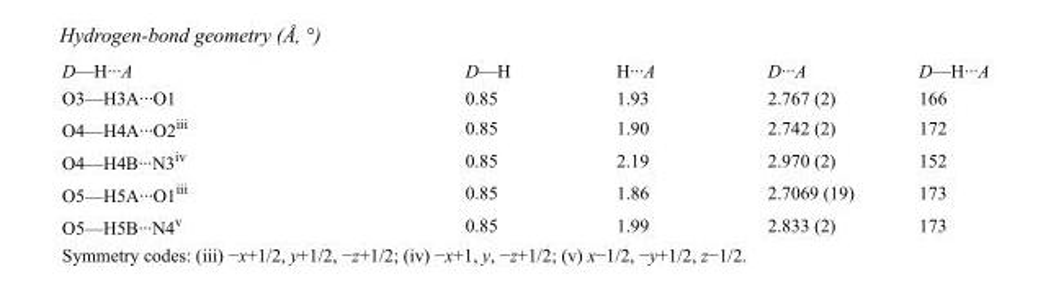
<table><tbody><tr><td>D—H···A</td><td>D—H</td><td>H···A</td><td>D···A</td><td>D—H···A</td></tr><tr><td>O3—H3A···O1</td><td>0.85</td><td>1.93</td><td>2.767 (2)</td><td>166</td></tr><tr><td>O4—H4A···O2<sup>iii</sup></td><td>0.85</td><td>1.90</td><td>2.742 (2)</td><td>172</td></tr><tr><td>O4—H4B···N3<sup>iv</sup></td><td>0.85</td><td>2.19</td><td>2.970 (2)</td><td>152</td></tr><tr><td>O5—H5A···O1<sup>iii</sup></td><td>0.85</td><td>1.86</td><td>2.7069 (19)</td><td>173</td></tr><tr><td>O5—H5B···N4<sup>v</sup></td><td>0.85</td><td>1.99</td><td>2.833 (2)</td><td>173</td></tr></tbody></table>